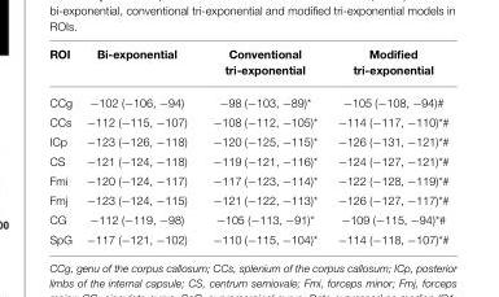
<table><thead><tr><td>ROI</td><td>Bi-exponential</td><td>Conventional tri-exponential</td><td>Modified tri-exponential</td></tr></thead><tbody><tr><td>CCg</td><td>−102 (−106, −94)</td><td>−98 (−103, −89)*</td><td>−105 (−108, −94)<sup>#</sup></td></tr><tr><td>CCs</td><td>−112 (−115, −107)</td><td>−108 (−112, −105)*</td><td>−114 (−117, −110)<sup>*#</sup></td></tr><tr><td>ICp</td><td>−123 (−126, −118)</td><td>−120 (−125, −115)*</td><td>−126 (−131, −121)<sup>*#</sup></td></tr><tr><td>CS</td><td>−121 (−124, −118)</td><td>−119 (−121, −116)*</td><td>−124 (−127, −121)<sup>*#</sup></td></tr><tr><td>Fmi</td><td>−120 (−124, −117)</td><td>−117 (−123, −114)*</td><td>−122 (−128, −119)<sup>*#</sup></td></tr><tr><td>Fmj</td><td>−123 (−124, −115)</td><td>−121 (−122, −113)*</td><td>−126 (−127, −117)<sup>*#</sup></td></tr><tr><td>CG</td><td>−112 (−119, −98)</td><td>−105 (−113, −91)*</td><td>−109 (−115, −94)<sup>*#</sup></td></tr><tr><td>SpG</td><td>−117 (−121, −102)</td><td>−110 (−115, −104)*</td><td>−114 (−118, −107)<sup>*#</sup></td></tr></tbody></table>